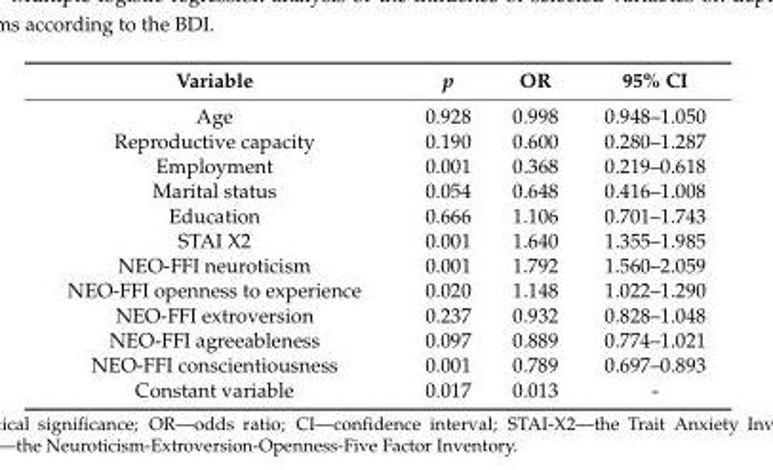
<table><thead><tr><td>Variable</td><td>p</td><td>OR</td><td>95% CI</td></tr></thead><tbody><tr><td>Age</td><td>0.928</td><td>0.998</td><td>0.948–1.050</td></tr><tr><td>Reproductive capacity</td><td>0.190</td><td>0.600</td><td>0.280–1.287</td></tr><tr><td>Employment</td><td>0.001</td><td>0.368</td><td>0.219–0.618</td></tr><tr><td>Marital status</td><td>0.054</td><td>0.648</td><td>0.416–1.008</td></tr><tr><td>Education</td><td>0.666</td><td>1.106</td><td>0.701–1.743</td></tr><tr><td>STAI X2</td><td>0.001</td><td>1.640</td><td>1.355–1.985</td></tr><tr><td>NEO-FFI neuroticism</td><td>0.001</td><td>1.792</td><td>1.560–2.059</td></tr><tr><td>NEO-FFI openness to experience</td><td>0.020</td><td>1.148</td><td>1.022–1.290</td></tr><tr><td>NEO-FFI extroversion</td><td>0.237</td><td>0.932</td><td>0.828–1.048</td></tr><tr><td>NEO-FFI agreeableness</td><td>0.097</td><td>0.889</td><td>0.774–1.021</td></tr><tr><td>NEO-FFI conscientiousness</td><td>0.001</td><td>0.789</td><td>0.697–0.893</td></tr><tr><td>Constant variable</td><td>0.017</td><td>0.013</td><td>-</td></tr></tbody></table>